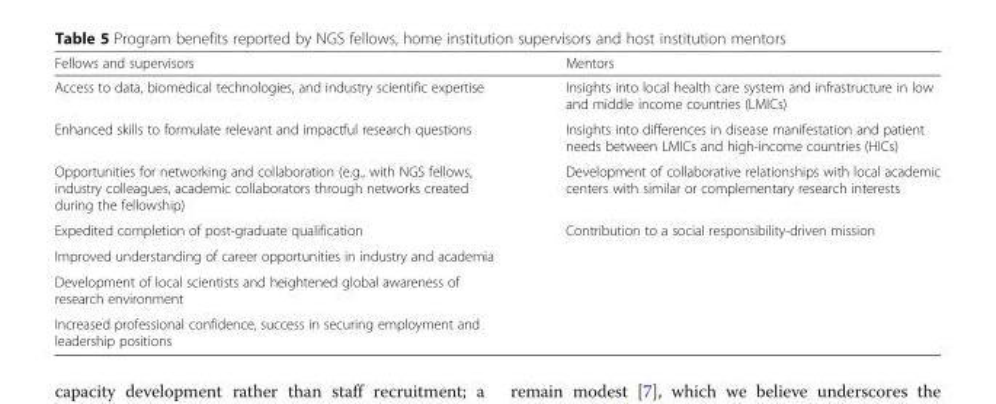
<table><thead><tr><td>Fellows and supervisors</td><td>Mentors</td></tr></thead><tbody><tr><td>Access to data, biomedical technologies, and industry scientific expertise</td><td>Insights into local health care system and infrastructure in low and middle income countries (LMICs)</td></tr><tr><td>Enhanced skills to formulate relevant and impactful research questions</td><td>Insights into differences in disease manifestation and patient needs between LMICs and high-income countries (HICs)</td></tr><tr><td>Opportunities for networking and collaboration (e.g., with NGS fellows, industry colleagues, academic collaborators through networks created during the fellowship)</td><td>Development of collaborative relationships with local academic centers with similar or complementary research interests</td></tr><tr><td>Expedited completion of post-graduate qualification</td><td>Contribution to a social responsibility-driven mission</td></tr><tr><td colspan="2">Improved understanding of career opportunities in industry and academia</td></tr><tr><td colspan="2">Development of local scientists and heightened global awareness of research environment</td></tr><tr><td>Increased professional confidence, success in securing employment and leadership positions</td><td></td></tr></tbody></table>